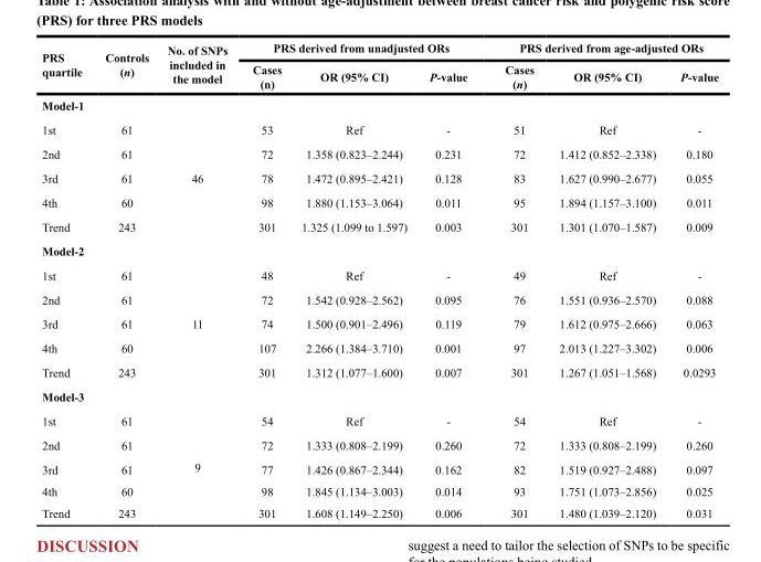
<table><thead><tr><td rowspan="2">PRS quartile</td><td rowspan="2">Controls (n)</td><td rowspan="2">No. of SNPs included in the model</td><td colspan="3">PRS derived from unadjusted ORs</td><td colspan="3">PRS derived from age-adjusted ORs</td></tr><tr><td>Cases (n)</td><td>OR (95% CI)</td><td>P-value</td><td>Cases (n)</td><td>OR (95% CI)</td><td>P-value</td></tr></thead><tbody><tr><td colspan="9">Model-1</td></tr><tr><td>1st</td><td>61</td><td rowspan="5">46</td><td>53</td><td>Ref</td><td>-</td><td>51</td><td>Ref</td><td>-</td></tr><tr><td>2nd</td><td>61</td><td>72</td><td>1.358 (0.823–2.244)</td><td>0.231</td><td>72</td><td>1.412 (0.852–2.338)</td><td>0.180</td></tr><tr><td>3rd</td><td>61</td><td>78</td><td>1.472 (0.895–2.421)</td><td>0.128</td><td>83</td><td>1.627 (0.990–2.677)</td><td>0.055</td></tr><tr><td>4th</td><td>60</td><td>98</td><td>1.880 (1.153–3.064)</td><td>0.011</td><td>95</td><td>1.894 (1.157–3.100)</td><td>0.011</td></tr><tr><td>Trend</td><td>243</td><td>301</td><td>1.325 (1.099 to 1.597)</td><td>0.003</td><td>301</td><td>1.301 (1.070–1.587)</td><td>0.009</td></tr><tr><td colspan="9">Model-2</td></tr><tr><td>1st</td><td>61</td><td rowspan="5">11</td><td>48</td><td>Ref</td><td>-</td><td>49</td><td>Ref</td><td>-</td></tr><tr><td>2nd</td><td>61</td><td>72</td><td>1.542 (0.928–2.562)</td><td>0.095</td><td>76</td><td>1.551 (0.936–2.570)</td><td>0.088</td></tr><tr><td>3rd</td><td>61</td><td>74</td><td>1.500 (0.901–2.496)</td><td>0.119</td><td>79</td><td>1.612 (0.975–2.666)</td><td>0.063</td></tr><tr><td>4th</td><td>60</td><td>107</td><td>2.266 (1.384–3.710)</td><td>0.001</td><td>97</td><td>2.013 (1.227–3.302)</td><td>0.006</td></tr><tr><td>Trend</td><td>243</td><td>301</td><td>1.312 (1.077–1.600)</td><td>0.007</td><td>301</td><td>1.267 (1.051–1.568)</td><td>0.0293</td></tr><tr><td colspan="9">Model-3</td></tr><tr><td>1st</td><td>61</td><td rowspan="5">9</td><td>54</td><td>Ref</td><td>-</td><td>54</td><td>Ref</td><td>-</td></tr><tr><td>2nd</td><td>61</td><td>72</td><td>1.333 (0.808–2.199)</td><td>0.260</td><td>72</td><td>1.333 (0.808–2.199)</td><td>0.260</td></tr><tr><td>3rd</td><td>61</td><td>77</td><td>1.426 (0.867–2.344)</td><td>0.162</td><td>82</td><td>1.519 (0.927–2.488)</td><td>0.097</td></tr><tr><td>4th</td><td>60</td><td>98</td><td>1.845 (1.134–3.003)</td><td>0.014</td><td>93</td><td>1.751 (1.073–2.856)</td><td>0.025</td></tr><tr><td>Trend</td><td>243</td><td>301</td><td>1.608 (1.149–2.250)</td><td>0.006</td><td>301</td><td>1.480 (1.039–2.120)</td><td>0.031</td></tr></tbody></table>